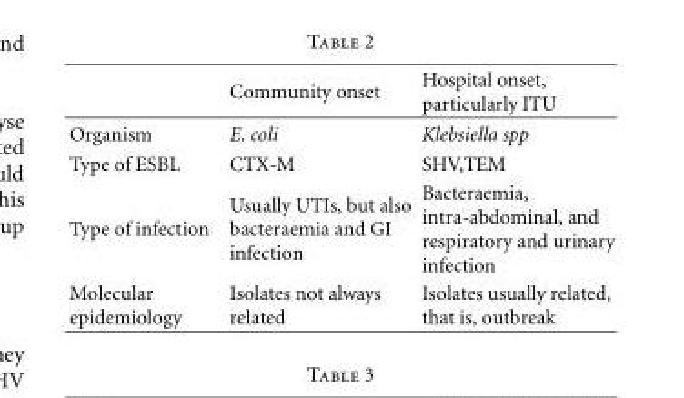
<table><thead><tr><td></td><td>Community onset</td><td>Hospital onset, particularly ITU</td></tr></thead><tbody><tr><td>Organism</td><td>E. coli</td><td>Klebsiella spp</td></tr><tr><td>Type of ESBL</td><td>CTX-M</td><td>SHV,TEM</td></tr><tr><td>Type of infection</td><td>Usually UTIs, but also bacteraemia and GI infection</td><td>Bacteraemia, intra-abdominal, and respiratory and urinary infection</td></tr><tr><td>Molecular epidemiology</td><td>Isolates not always related</td><td>Isolates usually related, that is, outbreak</td></tr></tbody></table>